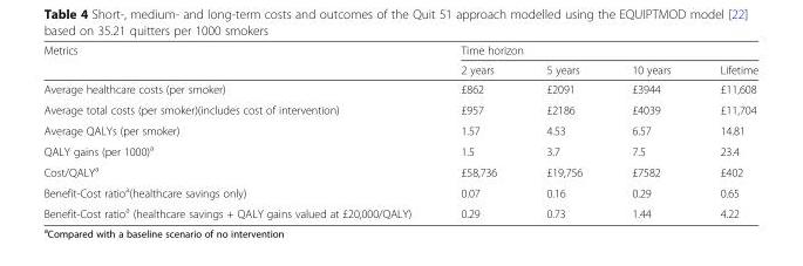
<table><thead><tr><td rowspan="2">Metrics</td><td colspan="4">Time horizon</td></tr><tr><td>2 years</td><td>5 years</td><td>10 years</td><td>Lifetime</td></tr></thead><tbody><tr><td>Average healthcare costs (per smoker)</td><td>£862</td><td>£2091</td><td>£3944</td><td>£11,608</td></tr><tr><td>Average total costs (per smoker)(includes cost of intervention)</td><td>£957</td><td>£2186</td><td>£4039</td><td>£11,704</td></tr><tr><td>Average QALYs (per smoker)</td><td>1.57</td><td>4.53</td><td>6.57</td><td>14.81</td></tr><tr><td>QALY gains (per 1000)<sup>a</sup></td><td>1.5</td><td>3.7</td><td>7.5</td><td>23.4</td></tr><tr><td>Cost/QALY<sup>a</sup></td><td>£58,736</td><td>£19,756</td><td>£7582</td><td>£402</td></tr><tr><td>Benefit-Cost ratio<sup>a</sup>(healthcare savings only)</td><td>0.07</td><td>0.16</td><td>0.29</td><td>0.65</td></tr><tr><td>Benefit-Cost ratio<sup>a</sup> (healthcare savings + QALY gains valued at £20,000/QALY)</td><td>0.29</td><td>0.73</td><td>1.44</td><td>4.22</td></tr></tbody></table>